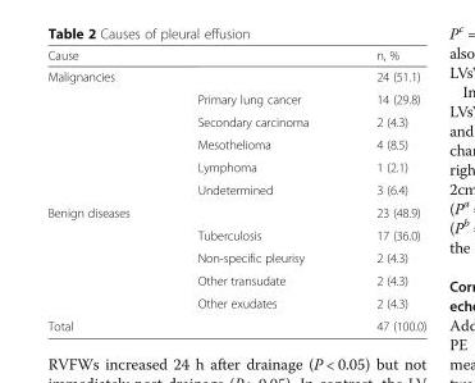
<table><thead><tr><td>Cause</td><td></td><td>n, %</td></tr></thead><tbody><tr><td rowspan="6">Malignancies</td><td></td><td>24 (51.1)</td></tr><tr><td>Primary lung cancer</td><td>14 (29.8)</td></tr><tr><td>Secondary carcinoma</td><td>2 (4.3)</td></tr><tr><td>Mesothelioma</td><td>4 (8.5)</td></tr><tr><td>Lymphoma</td><td>1 (2.1)</td></tr><tr><td>Undetermined</td><td>3 (6.4)</td></tr><tr><td rowspan="5">Benign diseases</td><td></td><td>23 (48.9)</td></tr><tr><td>Tuberculosis</td><td>17 (36.0)</td></tr><tr><td>Non-specific pleurisy</td><td>2 (4.3)</td></tr><tr><td>Other transudate</td><td>2 (4.3)</td></tr><tr><td>Other exudates</td><td>2 (4.3)</td></tr><tr><td>Total</td><td></td><td>47 (100.0)</td></tr></tbody></table>